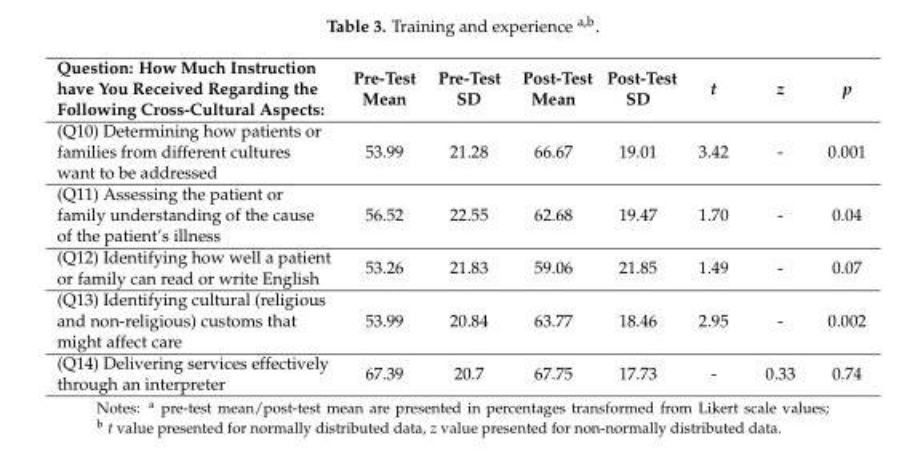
<table><thead><tr><td>Question: How Much Instruction have You Received Regarding the Following Cross-Cultural Aspects:</td><td>Pre-Test Mean</td><td>Pre-Test SD</td><td>Post-Test Mean</td><td>Post-Test SD</td><td>t</td><td>z</td><td>p</td></tr></thead><tbody><tr><td>(Q10) Determining how patients or families from different cultures want to be addressed</td><td>53.99</td><td>21.28</td><td>66.67</td><td>19.01</td><td>3.42</td><td>-</td><td>0.001</td></tr><tr><td>(Q11) Assessing the patient or family understanding of the cause of the patient’s illness</td><td>56.52</td><td>22.55</td><td>62.68</td><td>19.47</td><td>1.70</td><td>-</td><td>0.04</td></tr><tr><td>(Q12) Identifying how well a patient or family can read or write English</td><td>53.26</td><td>21.83</td><td>59.06</td><td>21.85</td><td>1.49</td><td>-</td><td>0.07</td></tr><tr><td>(Q13) Identifying cultural (religious and non-religious) customs that might affect care</td><td>53.99</td><td>20.84</td><td>63.77</td><td>18.46</td><td>2.95</td><td>-</td><td>0.002</td></tr><tr><td>(Q14) Delivering services effectively through an interpreter</td><td>67.39</td><td>20.7</td><td>67.75</td><td>17.73</td><td>-</td><td>0.33</td><td>0.74</td></tr></tbody></table>